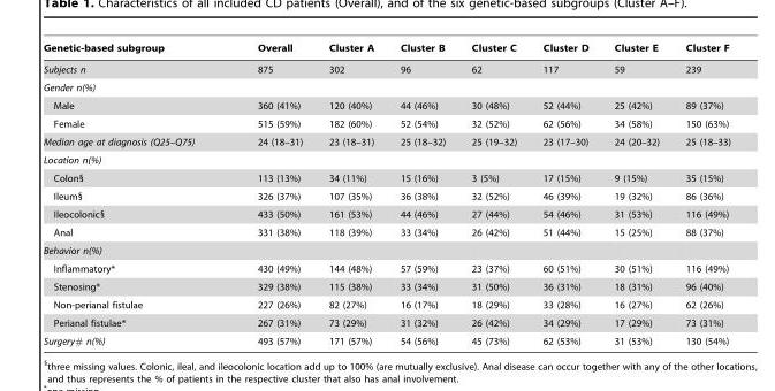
<table><thead><tr><td>Genetic-based subgroup</td><td>Overall</td><td>Cluster A</td><td>Cluster B</td><td>Cluster C</td><td>Cluster D</td><td>Cluster E</td><td>Cluster F</td></tr></thead><tbody><tr><td>Subjects n</td><td>875</td><td>302</td><td>96</td><td>62</td><td>117</td><td>59</td><td>239</td></tr><tr><td colspan="8">Gender n(%)</td></tr><tr><td>Male</td><td>360 (41%)</td><td>120 (40%)</td><td>44 (46%)</td><td>30 (48%)</td><td>52 (44%)</td><td>25 (42%)</td><td>89 (37%)</td></tr><tr><td>Female</td><td>515 (59%)</td><td>182 (60%)</td><td>52 (54%)</td><td>32 (52%)</td><td>62 (56%)</td><td>34 (58%)</td><td>150 (63%)</td></tr><tr><td>Median age at diagnosis (Q25–Q75)</td><td>24 (18–31)</td><td>23 (18–31)</td><td>25 (18–32)</td><td>25 (19–32)</td><td>23 (17–30)</td><td>24 (20–32)</td><td>25 (18–33)</td></tr><tr><td colspan="8">Location n(%)</td></tr><tr><td>Colon§</td><td>113 (13%)</td><td>34 (11%)</td><td>15 (16%)</td><td>3 (5%)</td><td>17 (15%)</td><td>9 (15%)</td><td>35 (15%)</td></tr><tr><td>Ileum§</td><td>326 (37%)</td><td>107 (35%)</td><td>36 (38%)</td><td>32 (52%)</td><td>46 (39%)</td><td>19 (32%)</td><td>86 (36%)</td></tr><tr><td>Ileocolonic§</td><td>433 (50%)</td><td>161 (53%)</td><td>44 (46%)</td><td>27 (44%)</td><td>54 (46%)</td><td>31 (53%)</td><td>116 (49%)</td></tr><tr><td>Anal</td><td>331 (38%)</td><td>118 (39%)</td><td>33 (34%)</td><td>26 (42%)</td><td>51 (44%)</td><td>15 (25%)</td><td>88 (37%)</td></tr><tr><td colspan="8">Behavior n(%)</td></tr><tr><td>Inflammatory*</td><td>430 (49%)</td><td>144 (48%)</td><td>57 (59%)</td><td>23 (37%)</td><td>60 (51%)</td><td>30 (51%)</td><td>116 (49%)</td></tr><tr><td>Stenosing*</td><td>329 (38%)</td><td>115 (38%)</td><td>33 (34%)</td><td>31 (50%)</td><td>36 (31%)</td><td>18 (31%)</td><td>96 (40%)</td></tr><tr><td>Non-perianal fistulae</td><td>227 (26%)</td><td>82 (27%)</td><td>16 (17%)</td><td>18 (29%)</td><td>33 (28%)</td><td>16 (27%)</td><td>62 (26%)</td></tr><tr><td>Perianal fistulae*</td><td>267 (31%)</td><td>73 (29%)</td><td>31 (32%)</td><td>26 (42%)</td><td>34 (29%)</td><td>17 (29%)</td><td>73 (31%)</td></tr><tr><td>Surgery# n(%)</td><td>493 (57%)</td><td>171 (57%)</td><td>54 (56%)</td><td>45 (73%)</td><td>62 (53%)</td><td>31 (53%)</td><td>130 (54%)</td></tr></tbody></table>